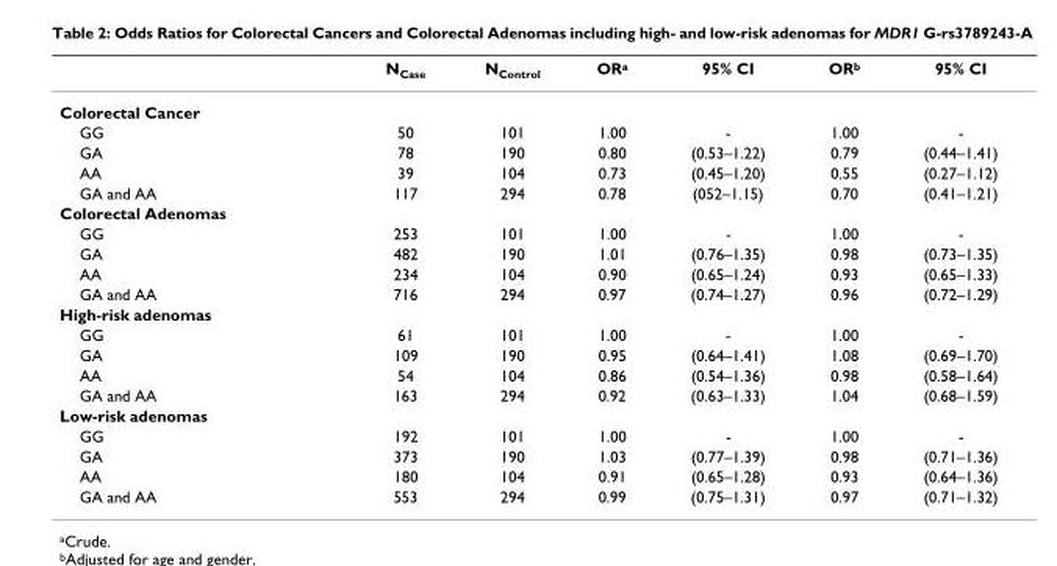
<table><thead><tr><td></td><td>N<sub>Case</sub></td><td>N<sub>Control</sub></td><td>OR<sup>a</sup></td><td>95% CI</td><td>OR<sup>b</sup></td><td>95% CI</td></tr></thead><tbody><tr><td colspan="7">Colorectal Cancer</td></tr><tr><td>GG</td><td>50</td><td>101</td><td>1.00</td><td>-</td><td>1.00</td><td>-</td></tr><tr><td>GA</td><td>78</td><td>190</td><td>0.80</td><td>(0.53–1.22)</td><td>0.79</td><td>(0.44–1.41)</td></tr><tr><td>AA</td><td>39</td><td>104</td><td>0.73</td><td>(0.45–1.20)</td><td>0.55</td><td>(0.27–1.12)</td></tr><tr><td>GA and AA</td><td>117</td><td>294</td><td>0.78</td><td>(052–1.15)</td><td>0.70</td><td>(0.41–1.21)</td></tr><tr><td colspan="7">Colorectal Adenomas</td></tr><tr><td>GG</td><td>253</td><td>101</td><td>1.00</td><td>-</td><td>1.00</td><td>-</td></tr><tr><td>GA</td><td>482</td><td>190</td><td>1.01</td><td>(0.76–1.35)</td><td>0.98</td><td>(0.73–1.35)</td></tr><tr><td>AA</td><td>234</td><td>104</td><td>0.90</td><td>(0.65–1.24)</td><td>0.93</td><td>(0.65–1.33)</td></tr><tr><td>GA and AA</td><td>716</td><td>294</td><td>0.97</td><td>(0.74–1.27)</td><td>0.96</td><td>(0.72–1.29)</td></tr><tr><td colspan="7">High-risk adenomas</td></tr><tr><td>GG</td><td>61</td><td>101</td><td>1.00</td><td>-</td><td>1.00</td><td>-</td></tr><tr><td>GA</td><td>109</td><td>190</td><td>0.95</td><td>(0.64–1.41)</td><td>1.08</td><td>(0.69–1.70)</td></tr><tr><td>AA</td><td>54</td><td>104</td><td>0.86</td><td>(0.54–1.36)</td><td>0.98</td><td>(0.58–1.64)</td></tr><tr><td>GA and AA</td><td>163</td><td>294</td><td>0.92</td><td>(0.63–1.33)</td><td>1.04</td><td>(0.68–1.59)</td></tr><tr><td colspan="7">Low-risk adenomas</td></tr><tr><td>GG</td><td>192</td><td>101</td><td>1.00</td><td>-</td><td>1.00</td><td>-</td></tr><tr><td>GA</td><td>373</td><td>190</td><td>1.03</td><td>(0.77–1.39)</td><td>0.98</td><td>(0.71–1.36)</td></tr><tr><td>AA</td><td>180</td><td>104</td><td>0.91</td><td>(0.65–1.28)</td><td>0.93</td><td>(0.64–1.36)</td></tr><tr><td>GA and AA</td><td>553</td><td>294</td><td>0.99</td><td>(0.75–1.31)</td><td>0.97</td><td>(0.71–1.32)</td></tr></tbody></table>